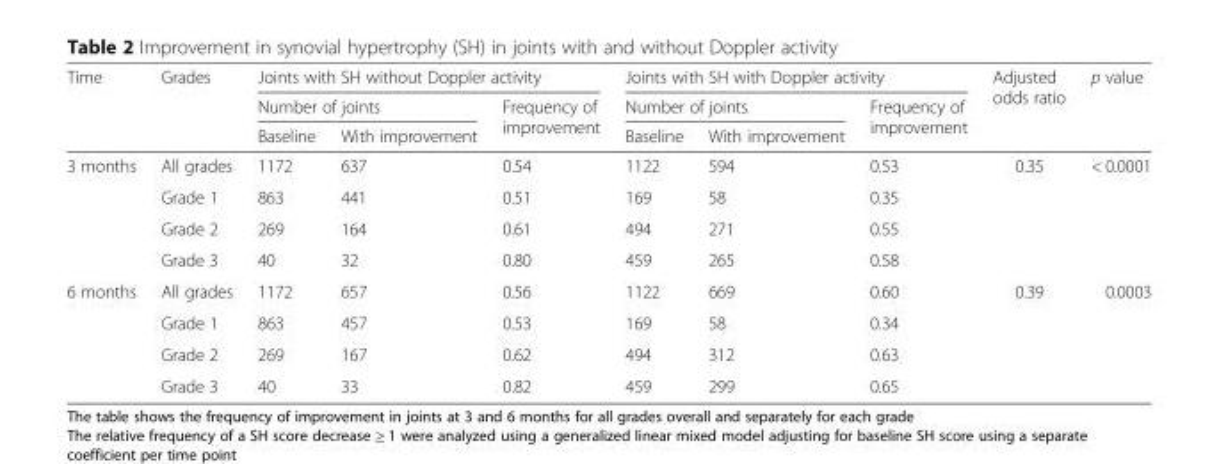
<table><thead><tr><td rowspan="3">Time</td><td rowspan="3">Grades</td><td colspan="3">Joints with SH without Doppler activity</td><td colspan="3">Joints with SH with Doppler activity</td><td rowspan="3">Adjusted odds ratio</td><td rowspan="3">p value</td></tr><tr><td colspan="2">Number of joints</td><td rowspan="2">Frequency of improvement</td><td colspan="2">Number of joints</td><td rowspan="2">Frequency of improvement</td></tr><tr><td>Baseline</td><td>With improvement</td><td>Baseline</td><td>With improvement</td></tr></thead><tbody><tr><td rowspan="4">3 months</td><td>All grades</td><td>1172</td><td>637</td><td>0.54</td><td>1122</td><td>594</td><td>0.53</td><td>0.35</td><td>&lt; 0.0001</td></tr><tr><td>Grade 1</td><td>863</td><td>441</td><td>0.51</td><td>169</td><td>58</td><td>0.35</td><td></td><td></td></tr><tr><td>Grade 2</td><td>269</td><td>164</td><td>0.61</td><td>494</td><td>271</td><td>0.55</td><td></td><td></td></tr><tr><td>Grade 3</td><td>40</td><td>32</td><td>0.80</td><td>459</td><td>265</td><td>0.58</td><td></td><td></td></tr><tr><td rowspan="4">6 months</td><td>All grades</td><td>1172</td><td>657</td><td>0.56</td><td>1122</td><td>669</td><td>0.60</td><td>0.39</td><td>0.0003</td></tr><tr><td>Grade 1</td><td>863</td><td>457</td><td>0.53</td><td>169</td><td>58</td><td>0.34</td><td></td><td></td></tr><tr><td>Grade 2</td><td>269</td><td>167</td><td>0.62</td><td>494</td><td>312</td><td>0.63</td><td></td><td></td></tr><tr><td>Grade 3</td><td>40</td><td>33</td><td>0.82</td><td>459</td><td>299</td><td>0.65</td><td></td><td></td></tr></tbody></table>